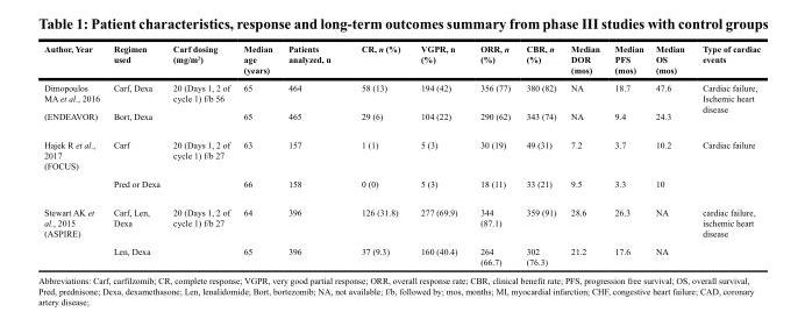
<table><thead><tr><td>Author, Year</td><td>Regimen used</td><td>Carf dosing (mg/m<sup>2</sup>)</td><td>Median age (years)</td><td>Patients analyzed, n</td><td>CR, n (%)</td><td>VGPR, n (%)</td><td>ORR, n (%)</td><td>CBR, n (%)</td><td>Median DOR (mos)</td><td>Median PFS (mos)</td><td>Median OS (mos)</td><td>Type of cardiac events</td></tr></thead><tbody><tr><td>Dimopoulos MA et al., 2016</td><td>Carf, Dexa</td><td>20 (Days 1, 2 of cycle 1) f/b 56</td><td>65</td><td>464</td><td>58 (13)</td><td>194 (42)</td><td>356 (77)</td><td>380 (82)</td><td>NA</td><td>18.7</td><td>47.6</td><td rowspan="2">Cardiac failure, Ischemic heart disease</td></tr><tr><td>(ENDEAVOR)</td><td>Bort, Dexa</td><td></td><td>65</td><td>465</td><td>29 (6)</td><td>104 (22)</td><td>290 (62)</td><td>343 (74)</td><td>NA</td><td>9.4</td><td>24.3</td></tr><tr><td rowspan="2">Hajek R et al., 2017 (FOCUS)</td><td>Carf</td><td>20 (Days 1, 2 of cycle 1) f/b 27</td><td>63</td><td>157</td><td>1 (1)</td><td>5 (3)</td><td>30 (19)</td><td>49 (31)</td><td>7.2</td><td>3.7</td><td>10.2</td><td rowspan="2">Cardiac failure</td></tr><tr><td>Pred or Dexa</td><td></td><td>66</td><td>158</td><td>0 (0)</td><td>5 (3)</td><td>18 (11)</td><td>33 (21)</td><td>9.5</td><td>3.3</td><td>10</td></tr><tr><td rowspan="2">Stewart AK et al., 2015 (ASPIRE)</td><td>Carf, Len, Dexa</td><td>20 (Days 1, 2 of cycle 1) f/b 27</td><td>64</td><td>396</td><td>126 (31.8)</td><td>277 (69.9)</td><td>344 (87.1)</td><td>359 (91)</td><td>28.6</td><td>26.3</td><td>NA</td><td rowspan="2">cardiac failure, ischemic heart disease</td></tr><tr><td>Len, Dexa</td><td></td><td>65</td><td>396</td><td>37 (9.3)</td><td>160 (40.4)</td><td>264 (66.7)</td><td>302 (76.3)</td><td>21.2</td><td>17.6</td><td>NA</td></tr></tbody></table>